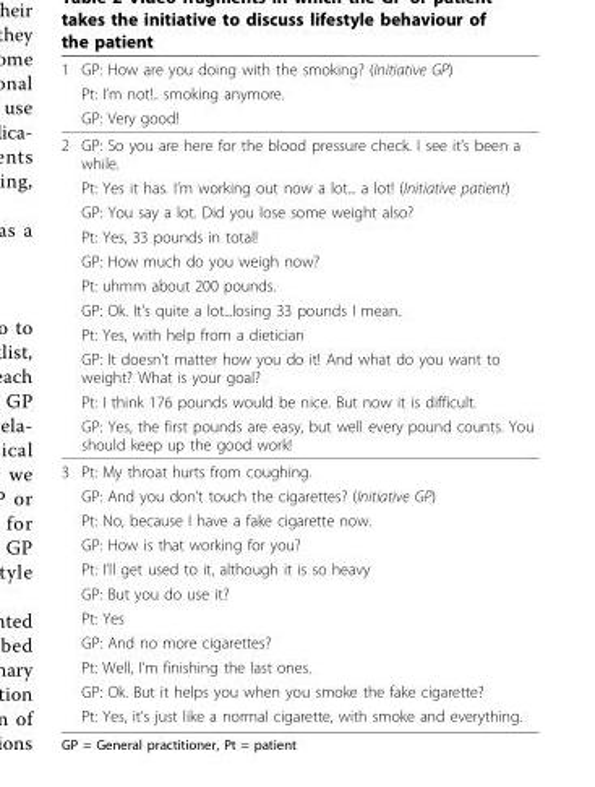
<table><thead><tr><td rowspan="3">1</td><td rowspan="3">GP: How are you doing with the smoking? (Initiative GP) Pt: I’m not!.. smoking anymore. GP: Very good!</td></tr><tr></tr><tr></tr></thead><tbody><tr><td rowspan="11">2</td><td>GP: So you are here for the blood pressure check. I see it’s been a while.</td></tr><tr><td>Pt: Yes it has. I’m working out now a lot... a lot! (Initiative patient)</td></tr><tr><td>GP: You say a lot. Did you lose some weight also?</td></tr><tr><td>Pt: Yes, 33 pounds in total!</td></tr><tr><td>GP: How much do you weigh now?</td></tr><tr><td>Pt: uhmm about 200 pounds.</td></tr><tr><td>GP: Ok. It’s quite a lot...losing 33 pounds I mean.</td></tr><tr><td>Pt: Yes, with help from a dietician</td></tr><tr><td>GP: It doesn’t matter how you do it! And what do you want to weight? What is your goal?</td></tr><tr><td>Pt: I think 176 pounds would be nice. But now it is difficult.</td></tr><tr><td>GP: Yes, the first pounds are easy, but well every pound counts. You should keep up the good work!</td></tr><tr><td rowspan="11">3</td><td>Pt: My throat hurts from coughing.</td></tr><tr><td>GP: And you don’t touch the cigarettes? (Initiative GP)</td></tr><tr><td>Pt: No, because I have a fake cigarette now.</td></tr><tr><td>GP: How is that working for you?</td></tr><tr><td>Pt: I’ll get used to it, although it is so heavy</td></tr><tr><td>GP: But you do use it?</td></tr><tr><td>Pt: Yes</td></tr><tr><td>GP: And no more cigarettes?</td></tr><tr><td>Pt: Well, I’m finishing the last ones.</td></tr><tr><td>GP: Ok. But it helps you when you smoke the fake cigarette?</td></tr><tr><td>Pt: Yes, it’s just like a normal cigarette, with smoke and everything.</td></tr></tbody></table>